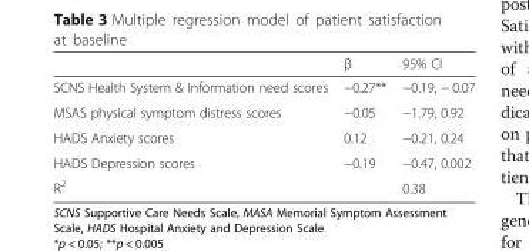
<table><thead><tr><td></td><td>β</td><td>95% CI</td></tr></thead><tbody><tr><td>SCNS Health System &amp; Information need scores</td><td>−0.27**</td><td>−0.19, − 0.07</td></tr><tr><td>MSAS physical symptom distress scores</td><td>−0.05</td><td>−1.79, 0.92</td></tr><tr><td>HADS Anxiety scores</td><td>0.12</td><td>−0.21, 0.24</td></tr><tr><td>HADS Depression scores</td><td>−0.19</td><td>−0.47, 0.002</td></tr><tr><td>R<sup>2</sup></td><td></td><td>0.38</td></tr></tbody></table>